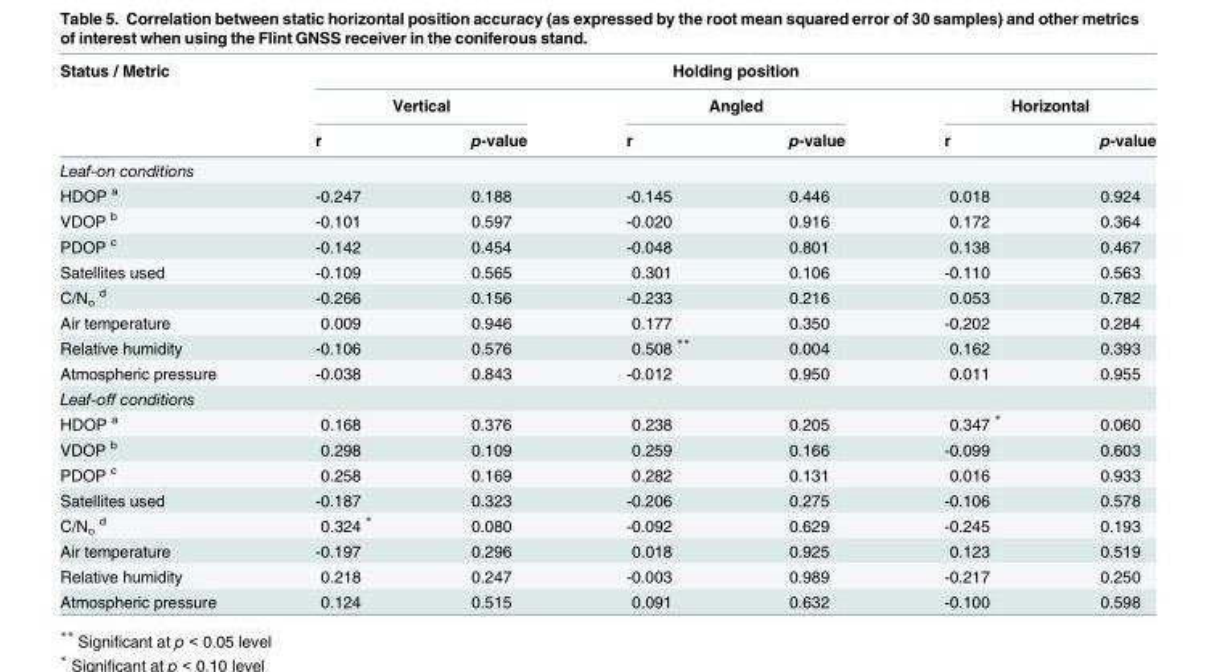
<table><thead><tr><td rowspan="3">Status / Metric</td><td colspan="6">Holding position</td></tr><tr><td colspan="2">Vertical</td><td colspan="2">Angled</td><td colspan="2">Horizontal</td></tr><tr><td>r</td><td>p-value</td><td>r</td><td>p-value</td><td>r</td><td>p-value</td></tr></thead><tbody><tr><td colspan="7">Leaf-on conditions</td></tr><tr><td>HDOP <sup>a</sup></td><td>-0.247</td><td>0.188</td><td>-0.145</td><td>0.446</td><td>0.018</td><td>0.924</td></tr><tr><td>VDOP <sup>b</sup></td><td>-0.101</td><td>0.597</td><td>-0.020</td><td>0.916</td><td>0.172</td><td>0.364</td></tr><tr><td>PDOP <sup>c</sup></td><td>-0.142</td><td>0.454</td><td>-0.048</td><td>0.801</td><td>0.138</td><td>0.467</td></tr><tr><td>Satellites used</td><td>-0.109</td><td>0.565</td><td>0.301</td><td>0.106</td><td>-0.110</td><td>0.563</td></tr><tr><td>C/N<sub>o</sub> <sup>d</sup></td><td>-0.266</td><td>0.156</td><td>-0.233</td><td>0.216</td><td>0.053</td><td>0.782</td></tr><tr><td>Air temperature</td><td>0.009</td><td>0.946</td><td>0.177</td><td>0.350</td><td>-0.202</td><td>0.284</td></tr><tr><td>Relative humidity</td><td>-0.106</td><td>0.576</td><td>0.508 **</td><td>0.004</td><td>0.162</td><td>0.393</td></tr><tr><td>Atmospheric pressure</td><td>-0.038</td><td>0.843</td><td>-0.012</td><td>0.950</td><td>0.011</td><td>0.955</td></tr><tr><td colspan="7">Leaf-off conditions</td></tr><tr><td>HDOP <sup>a</sup></td><td>0.168</td><td>0.376</td><td>0.238</td><td>0.205</td><td>0.347 *</td><td>0.060</td></tr><tr><td>VDOP <sup>b</sup></td><td>0.298</td><td>0.109</td><td>0.259</td><td>0.166</td><td>-0.099</td><td>0.603</td></tr><tr><td>PDOP <sup>c</sup></td><td>0.258</td><td>0.169</td><td>0.282</td><td>0.131</td><td>0.016</td><td>0.933</td></tr><tr><td>Satellites used</td><td>-0.187</td><td>0.323</td><td>-0.206</td><td>0.275</td><td>-0.106</td><td>0.578</td></tr><tr><td>C/N<sub>o</sub> <sup>d</sup></td><td>0.324 *</td><td>0.080</td><td>-0.092</td><td>0.629</td><td>-0.245</td><td>0.193</td></tr><tr><td>Air temperature</td><td>-0.197</td><td>0.296</td><td>0.018</td><td>0.925</td><td>0.123</td><td>0.519</td></tr><tr><td>Relative humidity</td><td>0.218</td><td>0.247</td><td>-0.003</td><td>0.989</td><td>-0.217</td><td>0.250</td></tr><tr><td>Atmospheric pressure</td><td>0.124</td><td>0.515</td><td>0.091</td><td>0.632</td><td>-0.100</td><td>0.598</td></tr></tbody></table>